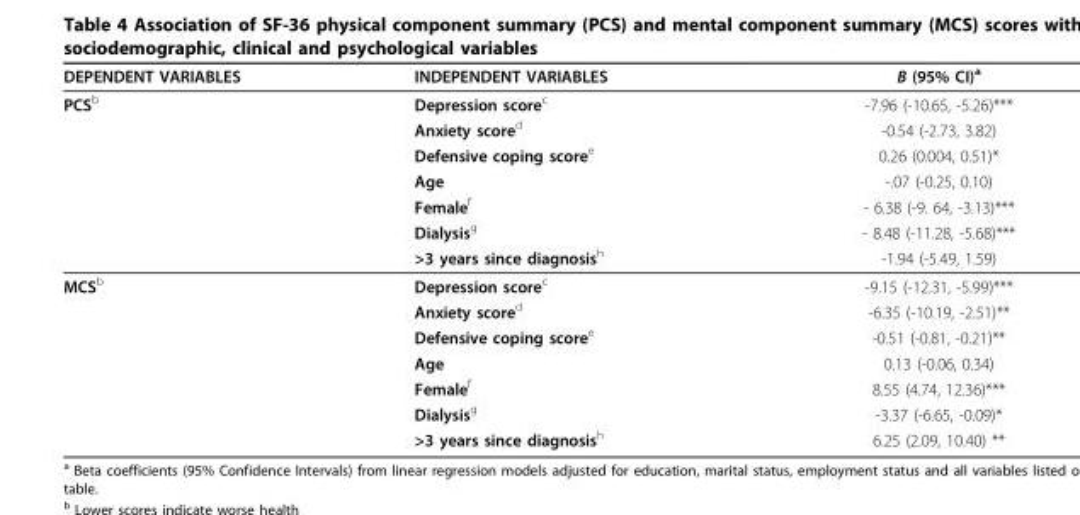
<table><thead><tr><td>DEPENDENT VARIABLES</td><td>INDEPENDENT VARIABLES</td><td>B (95% CI)<sup>a</sup></td></tr></thead><tbody><tr><td rowspan="7">PCS<sup>b</sup></td><td>Depression score<sup>c</sup></td><td>-7.96 (-10.65, -5.26)***</td></tr><tr><td>Anxiety score<sup>d</sup></td><td>-0.54 (-2.73, 3.82)</td></tr><tr><td>Defensive coping score<sup>e</sup></td><td>0.26 (0.004, 0.51)*</td></tr><tr><td>Age</td><td>-.07 (-0.25, 0.10)</td></tr><tr><td>Female<sup>f</sup></td><td>- 6.38 (-9. 64, -3.13)***</td></tr><tr><td>Dialysis<sup>g</sup></td><td>- 8.48 (-11.28, -5.68)***</td></tr><tr><td>&gt;3 years since diagnosis<sup>h</sup></td><td>-1.94 (-5.49, 1.59)</td></tr><tr><td rowspan="7">MCS<sup>b</sup></td><td>Depression score<sup>c</sup></td><td>-9.15 (-12.31, -5.99)***</td></tr><tr><td>Anxiety score<sup>d</sup></td><td>-6.35 (-10.19, -2.51)**</td></tr><tr><td>Defensive coping score<sup>e</sup></td><td>-0.51 (-0.81, -0.21)**</td></tr><tr><td>Age</td><td>0.13 (-0.06, 0.34)</td></tr><tr><td>Female<sup>f</sup></td><td>8.55 (4.74, 12.36)***</td></tr><tr><td>Dialysis<sup>g</sup></td><td>-3.37 (-6.65, -0.09)*</td></tr><tr><td>&gt;3 years since diagnosis<sup>h</sup></td><td>6.25 (2.09, 10.40) **</td></tr></tbody></table>